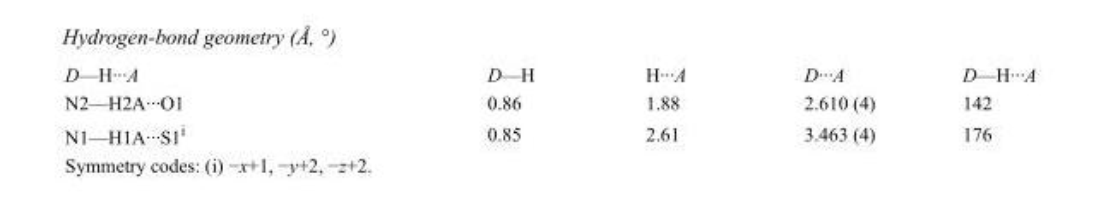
<table><tbody><tr><td>D—H···A</td><td>D—H</td><td>H···A</td><td>D···A</td><td>D—H···A</td></tr><tr><td>N2—H2A···O1</td><td>0.86</td><td>1.88</td><td>2.610 (4)</td><td>142</td></tr><tr><td>N1—H1A···S1<sup>i</sup></td><td>0.85</td><td>2.61</td><td>3.463 (4)</td><td>176</td></tr></tbody></table>